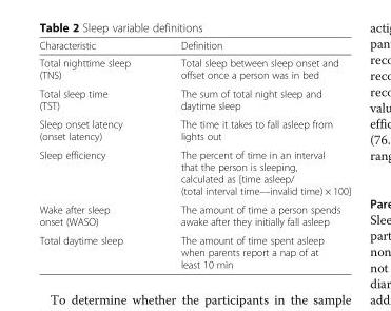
<table><thead><tr><td>Characteristic</td><td>Definition</td></tr></thead><tbody><tr><td>Total nighttime sleep (TNS)</td><td>Total sleep between sleep onset and offset once a person was in bed</td></tr><tr><td>Total sleep time (TST)</td><td>The sum of total night sleep and daytime sleep</td></tr><tr><td>Sleep onset latency (onset latency)</td><td>The time it takes to fall asleep from lights out</td></tr><tr><td>Sleep efficiency</td><td>The percent of time in an interval that the person is sleeping, calculated as [time asleep/ (total interval time––invalid time) × 100]</td></tr><tr><td>Wake after sleep onset (WASO)</td><td>The amount of time a person spends awake after they initially fall asleep</td></tr><tr><td>Total daytime sleep</td><td>The amount of time spent asleep when parents report a nap of at least 10 min</td></tr></tbody></table>